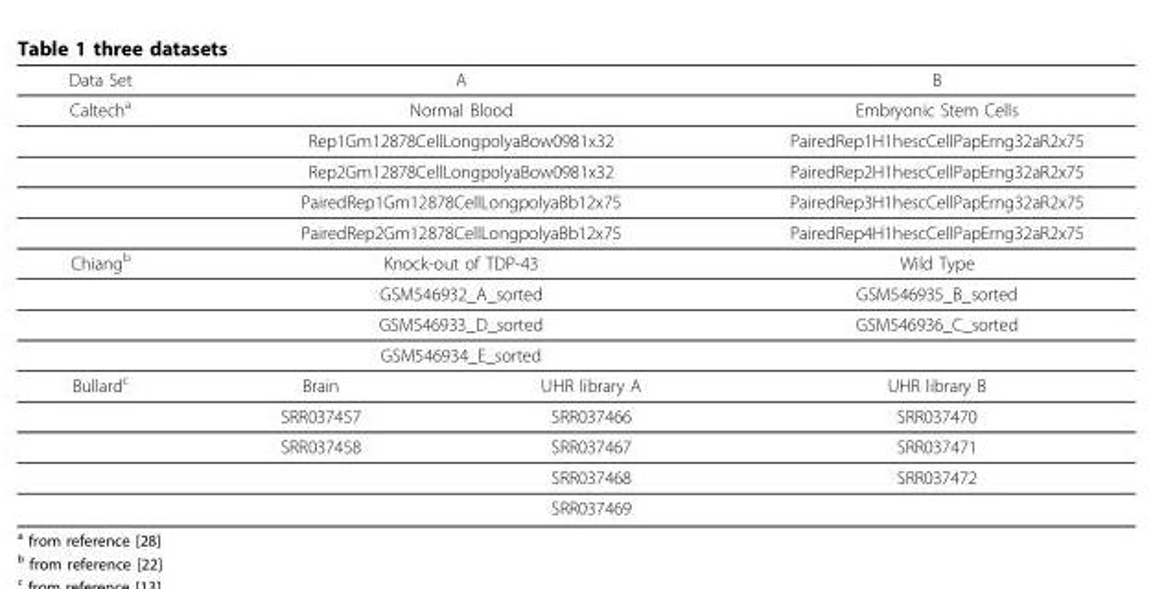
<table><thead><tr><td>Data Set</td><td colspan="2">A</td><td>B</td></tr></thead><tbody><tr><td rowspan="5">Caltech<sup>a</sup></td><td colspan="2">Normal Blood</td><td>Embryonic Stem Cells</td></tr><tr><td colspan="2">Rep1Gm12878CellLongpolyaBow0981x32</td><td>PairedRep1H1hescCellPapErng32aR2x75</td></tr><tr><td colspan="2">Rep2Gm12878CellLongpolyaBow0981x32</td><td>PairedRep2H1hescCellPapErng32aR2x75</td></tr><tr><td colspan="2">PairedRep1Gm12878CellLongpolyaBb12x75</td><td>PairedRep3H1hescCellPapErng32aR2x75</td></tr><tr><td colspan="2">PairedRep2Gm12878CellLongpolyaBb12x75</td><td>PairedRep4H1hescCellPapErng32aR2x75</td></tr><tr><td rowspan="4">Chiang<sup>b</sup></td><td colspan="2">Knock-out of TDP-43</td><td>Wild Type</td></tr><tr><td colspan="2">GSM546932_A_sorted</td><td>GSM546935_B_sorted</td></tr><tr><td colspan="2">GSM546933_D_sorted</td><td>GSM546936_C_sorted</td></tr><tr><td colspan="2">GSM546934_E_sorted</td><td></td></tr><tr><td rowspan="5">Bullard<sup>c</sup></td><td>Brain</td><td>UHR library A</td><td>UHR library B</td></tr><tr><td>SRR037457</td><td>SRR037466</td><td>SRR037470</td></tr><tr><td>SRR037458</td><td>SRR037467</td><td>SRR037471</td></tr><tr><td></td><td>SRR037468</td><td>SRR037472</td></tr><tr><td></td><td>SRR037469</td><td></td></tr></tbody></table>